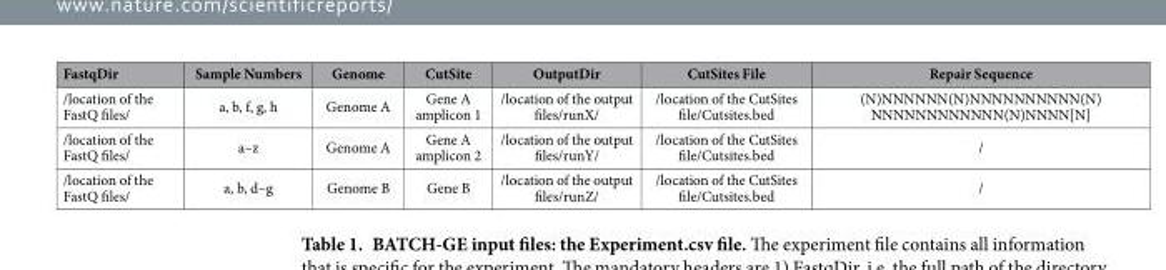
<table><thead><tr><td>FastqDir</td><td>Sample Numbers</td><td>Genome</td><td>CutSite</td><td>OutputDir</td><td>CutSites File</td><td>Repair Sequence</td></tr></thead><tbody><tr><td>/location of the FastQ files/</td><td>a, b, f, g, h</td><td>Genome A</td><td>Gene A amplicon 1</td><td>/location of the output files/runX/</td><td>/location of the CutSites file/Cutsites.bed</td><td>(N)NNNNNN(N)NNNNNNNNNN(N) NNNNNNNNNNNN(N)NNNN[N]</td></tr><tr><td>/location of the FastQ files/</td><td>a–z</td><td>Genome A</td><td>Gene A amplicon 2</td><td>/location of the output files/runY/</td><td>/location of the CutSites file/Cutsites.bed</td><td>/</td></tr><tr><td>/location of the FastQ files/</td><td>a, b, d–g</td><td>Genome B</td><td>Gene B</td><td>/location of the output files/runZ/</td><td>/location of the CutSites file/Cutsites.bed</td><td>/</td></tr></tbody></table>